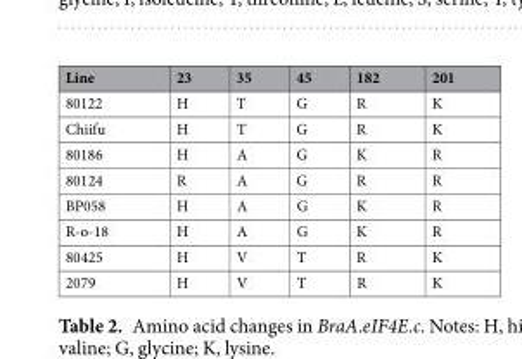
<table><thead><tr><td>Line</td><td>23</td><td>35</td><td>45</td><td>182</td><td>201</td></tr></thead><tbody><tr><td>80122</td><td>H</td><td>T</td><td>G</td><td>R</td><td>K</td></tr><tr><td>Chiifu</td><td>H</td><td>T</td><td>G</td><td>R</td><td>K</td></tr><tr><td>80186</td><td>H</td><td>A</td><td>G</td><td>K</td><td>R</td></tr><tr><td>80124</td><td>R</td><td>A</td><td>G</td><td>R</td><td>R</td></tr><tr><td>BP058</td><td>H</td><td>A</td><td>G</td><td>K</td><td>R</td></tr><tr><td>R-o-18</td><td>H</td><td>A</td><td>G</td><td>K</td><td>R</td></tr><tr><td>80425</td><td>H</td><td>V</td><td>T</td><td>R</td><td>K</td></tr><tr><td>2079</td><td>H</td><td>V</td><td>T</td><td>R</td><td>K</td></tr></tbody></table>